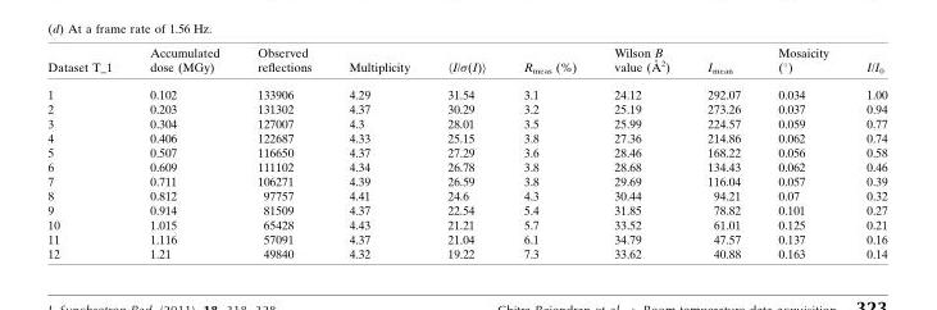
<table><thead><tr><td>Dataset T_1</td><td>Accumulated dose (MGy)</td><td>Observed reflections</td><td>Multiplicity</td><td>〈I/σ(I)〉</td><td>R<sub>meas</sub> (%)</td><td>Wilson B value (A˚ 2)</td><td>I<sub>mean</sub></td><td>Mosaicity (°)</td><td>I/I<sub>0</sub></td></tr></thead><tbody><tr><td>1</td><td>0.102</td><td>133906</td><td>4.29</td><td>31.54</td><td>3.1</td><td>24.12</td><td>292.07</td><td>0.034</td><td>1.00</td></tr><tr><td>2</td><td>0.203</td><td>131302</td><td>4.37</td><td>30.29</td><td>3.2</td><td>25.19</td><td>273.26</td><td>0.037</td><td>0.94</td></tr><tr><td>3</td><td>0.304</td><td>127007</td><td>4.3</td><td>28.01</td><td>3.5</td><td>25.99</td><td>224.57</td><td>0.059</td><td>0.77</td></tr><tr><td>4</td><td>0.406</td><td>122687</td><td>4.33</td><td>25.15</td><td>3.8</td><td>27.36</td><td>214.86</td><td>0.062</td><td>0.74</td></tr><tr><td>5</td><td>0.507</td><td>116650</td><td>4.37</td><td>27.29</td><td>3.6</td><td>28.46</td><td>168.22</td><td>0.056</td><td>0.58</td></tr><tr><td>6</td><td>0.609</td><td>111102</td><td>4.34</td><td>26.78</td><td>3.8</td><td>28.68</td><td>134.43</td><td>0.062</td><td>0.46</td></tr><tr><td>7</td><td>0.711</td><td>106271</td><td>4.39</td><td>26.59</td><td>3.8</td><td>29.69</td><td>116.04</td><td>0.057</td><td>0.39</td></tr><tr><td>8</td><td>0.812</td><td>97757</td><td>4.41</td><td>24.6</td><td>4.3</td><td>30.44</td><td>94.21</td><td>0.07</td><td>0.32</td></tr><tr><td>9</td><td>0.914</td><td>81509</td><td>4.37</td><td>22.54</td><td>5.4</td><td>31.85</td><td>78.82</td><td>0.101</td><td>0.27</td></tr><tr><td>10</td><td>1.015</td><td>65428</td><td>4.43</td><td>21.21</td><td>5.7</td><td>33.52</td><td>61.01</td><td>0.125</td><td>0.21</td></tr><tr><td>11</td><td>1.116</td><td>57091</td><td>4.37</td><td>21.04</td><td>6.1</td><td>34.79</td><td>47.57</td><td>0.137</td><td>0.16</td></tr><tr><td>12</td><td>1.21</td><td>49840</td><td>4.32</td><td>19.22</td><td>7.3</td><td>33.62</td><td>40.88</td><td>0.163</td><td>0.14</td></tr></tbody></table>